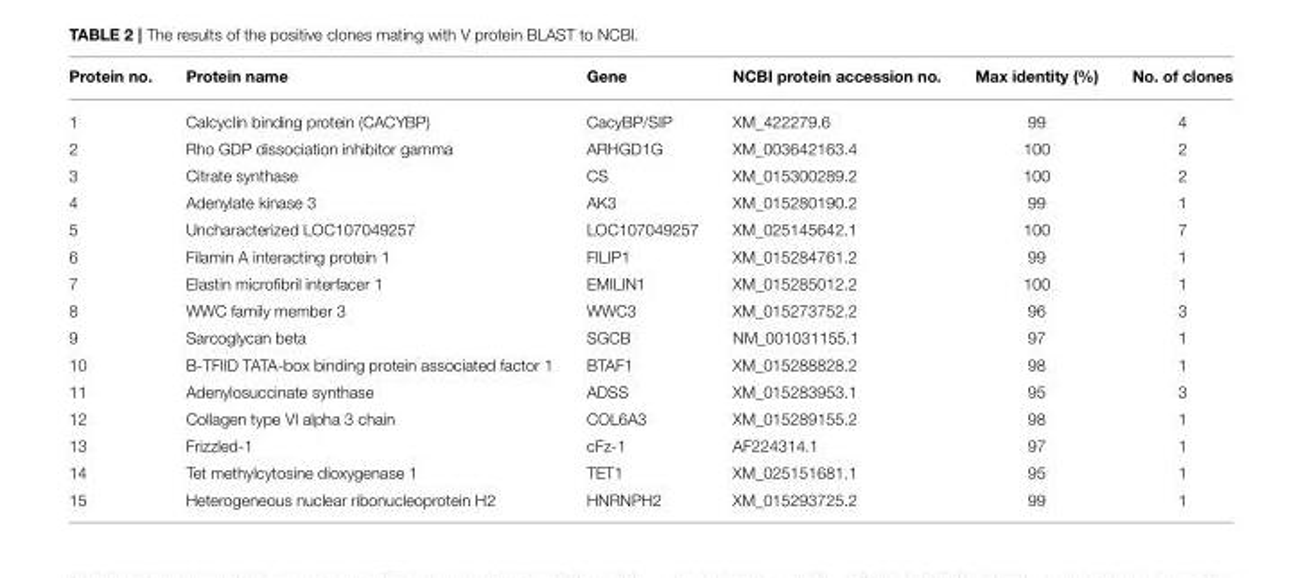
<table><thead><tr><td>Protein no.</td><td>Protein name</td><td>Gene</td><td>NCBI protein accession no.</td><td>Max identity (%)</td><td>No. of clones</td></tr></thead><tbody><tr><td>1</td><td>Calcyclin binding protein (CACYBP)</td><td>CacyBP/SIP</td><td>XM_422279.6</td><td>99</td><td>4</td></tr><tr><td>2</td><td>Rho GDP dissociation inhibitor gamma</td><td>ARHGD1G</td><td>XM_003642163.4</td><td>100</td><td>2</td></tr><tr><td>3</td><td>Citrate synthase</td><td>CS</td><td>XM_015300289.2</td><td>100</td><td>2</td></tr><tr><td>4</td><td>Adenylate kinase 3</td><td>AK3</td><td>XM_015280190.2</td><td>99</td><td>1</td></tr><tr><td>5</td><td>Uncharacterized LOC107049257</td><td>LOC107049257</td><td>XM_025145642.1</td><td>100</td><td>7</td></tr><tr><td>6</td><td>Filamin A interacting protein 1</td><td>FILIP1</td><td>XM_015284761.2</td><td>99</td><td>1</td></tr><tr><td>7</td><td>Elastin microfibril interfacer 1</td><td>EMILIN1</td><td>XM_015285012.2</td><td>100</td><td>1</td></tr><tr><td>8</td><td>WWC family member 3</td><td>WWC3</td><td>XM_015273752.2</td><td>96</td><td>3</td></tr><tr><td>9</td><td>Sarcoglycan beta</td><td>SGCB</td><td>NM_001031155.1</td><td>97</td><td>1</td></tr><tr><td>10</td><td>B-TFIID TATA-box binding protein associated factor 1</td><td>BTAF1</td><td>XM_015288828.2</td><td>98</td><td>1</td></tr><tr><td>11</td><td>Adenylosuccinate synthase</td><td>ADSS</td><td>XM_015283953.1</td><td>95</td><td>3</td></tr><tr><td>12</td><td>Collagen type VI alpha 3 chain</td><td>COL6A3</td><td>XM_015289155.2</td><td>98</td><td>1</td></tr><tr><td>13</td><td>Frizzled-1</td><td>cFz-1</td><td>AF224314.1</td><td>97</td><td>1</td></tr><tr><td>14</td><td>Tet methylcytosine dioxygenase 1</td><td>TET1</td><td>XM_025151681.1</td><td>95</td><td>1</td></tr><tr><td>15</td><td>Heterogeneous nuclear ribonucleoprotein H2</td><td>HNRNPH2</td><td>XM_015293725.2</td><td>99</td><td>1</td></tr></tbody></table>